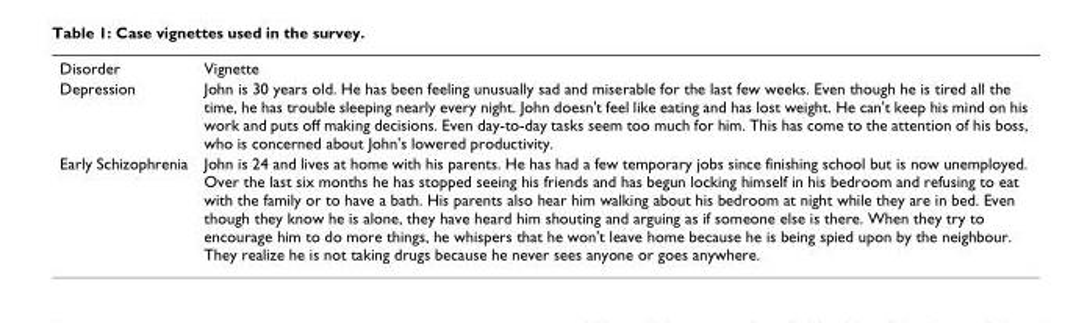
<table><tbody><tr><td>Disorder</td><td>Vignette</td></tr><tr><td>Depression</td><td>John is 30 years old. He has been feeling unusually sad and miserable for the last few weeks. Even though he is tired all the time, he has trouble sleeping nearly every night. John doesn&#x27;t feel like eating and has lost weight. He can&#x27;t keep his mind on his work and puts off making decisions. Even day-to-day tasks seem too much for him. This has come to the attention of his boss, who is concerned about John&#x27;s lowered productivity.</td></tr><tr><td>Early Schizophrenia</td><td>John is 24 and lives at home with his parents. He has had a few temporary jobs since finishing school but is now unemployed. Over the last six months he has stopped seeing his friends and has begun locking himself in his bedroom and refusing to eat with the family or to have a bath. His parents also hear him walking about his bedroom at night while they are in bed. Even though they know he is alone, they have heard him shouting and arguing as if someone else is there. When they try to encourage him to do more things, he whispers that he won&#x27;t leave home because he is being spied upon by the neighbour. They realize he is not taking drugs because he never sees anyone or goes anywhere.</td></tr></tbody></table>